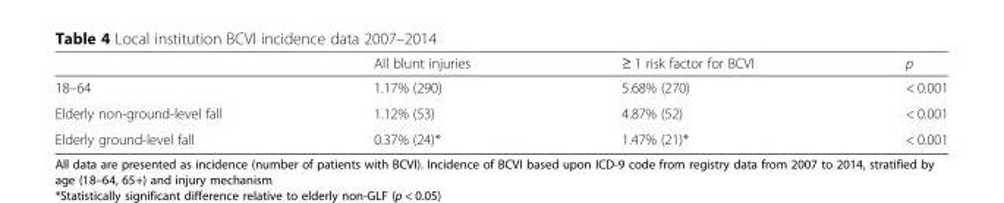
<table><thead><tr><td></td><td>All blunt injuries</td><td>≥ 1 risk factor for BCVI</td><td>p</td></tr></thead><tbody><tr><td>18–64</td><td>1.17% (290)</td><td>5.68% (270)</td><td>&lt; 0.001</td></tr><tr><td>Elderly non-ground-level fall</td><td>1.12% (53)</td><td>4.87% (52)</td><td>&lt; 0.001</td></tr><tr><td>Elderly ground-level fall</td><td>0.37% (24)*</td><td>1.47% (21)*</td><td>&lt; 0.001</td></tr></tbody></table>